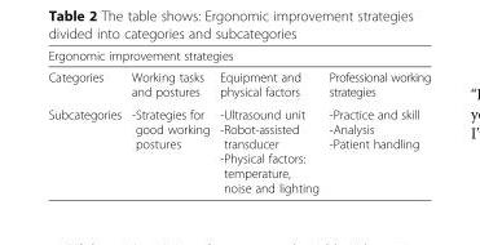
<table><thead><tr><td colspan="4">Ergonomic improvement strategies</td></tr><tr><td>Categories</td><td>Working tasks and postures</td><td>Equipment and physical factors</td><td>Professional working strategies</td></tr></thead><tbody><tr><td>Subcategories</td><td>-Strategies for good working postures</td><td>-Ultrasound unit -Robot-assisted transducer -Physical factors: temperature, noise and lighting</td><td>-Practice and skill -Analysis -Patient handling</td></tr></tbody></table>